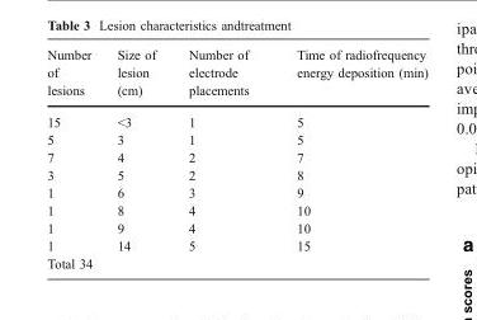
<table><thead><tr><td>Number of lesions</td><td>Size of lesion (cm)</td><td>Number of electrode placements</td><td>Time of radiofrequency energy deposition (min)</td></tr></thead><tbody><tr><td>15</td><td>&lt;3</td><td>1</td><td>5</td></tr><tr><td>5</td><td>3</td><td>1</td><td>5</td></tr><tr><td>7</td><td>4</td><td>2</td><td>7</td></tr><tr><td>3</td><td>5</td><td>2</td><td>8</td></tr><tr><td>1</td><td>6</td><td>3</td><td>9</td></tr><tr><td>1</td><td>8</td><td>4</td><td>10</td></tr><tr><td>1</td><td>9</td><td>4</td><td>10</td></tr><tr><td>1</td><td>14</td><td>5</td><td>15</td></tr><tr><td>Total 34</td><td></td><td></td><td></td></tr></tbody></table>